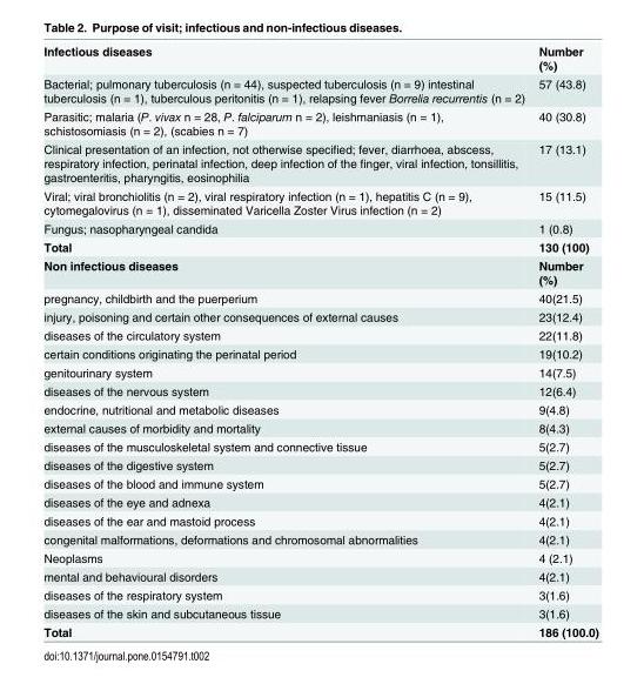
<table><tbody><tr><td>Infectious diseases</td><td>Number (%)</td></tr><tr><td>Bacterial; pulmonary tuberculosis (n = 44), suspected tuberculosis (n = 9) intestinal tuberculosis (n = 1), tuberculous peritonitis (n = 1), relapsing fever Borrelia recurrentis (n = 2)</td><td>57 (43.8)</td></tr><tr><td>Parasitic; malaria (P. vivax n = 28, P. falciparum n = 2), leishmaniasis (n = 1), schistosomiasis (n = 2), (scabies n = 7)</td><td>40 (30.8)</td></tr><tr><td>Clinical presentation of an infection, not otherwise specified; fever, diarrhoea, abscess, respiratory infection, perinatal infection, deep infection of the finger, viral infection, tonsillitis, gastroenteritis, pharyngitis, eosinophilia</td><td>17 (13.1)</td></tr><tr><td>Viral; viral bronchiolitis (n = 2), viral respiratory infection (n = 1), hepatitis C (n = 9), cytomegalovirus (n = 1), disseminated Varicella Zoster Virus infection (n = 2)</td><td>15 (11.5)</td></tr><tr><td>Fungus; nasopharyngeal candida</td><td>1 (0.8)</td></tr><tr><td>Total</td><td>130 (100)</td></tr><tr><td>Non infectious diseases</td><td>Number (%)</td></tr><tr><td>pregnancy, childbirth and the puerperium</td><td>40(21.5)</td></tr><tr><td>injury, poisoning and certain other consequences of external causes</td><td>23(12.4)</td></tr><tr><td>diseases of the circulatory system</td><td>22(11.8)</td></tr><tr><td>certain conditions originating the perinatal period</td><td>19(10.2)</td></tr><tr><td>genitourinary system</td><td>14(7.5)</td></tr><tr><td>diseases of the nervous system</td><td>12(6.4)</td></tr><tr><td>endocrine, nutritional and metabolic diseases</td><td>9(4.8)</td></tr><tr><td>external causes of morbidity and mortality</td><td>8(4.3)</td></tr><tr><td>diseases of the musculoskeletal system and connective tissue</td><td>5(2.7)</td></tr><tr><td>diseases of the digestive system</td><td>5(2.7)</td></tr><tr><td>diseases of the blood and immune system</td><td>5(2.7)</td></tr><tr><td>diseases of the eye and adnexa</td><td>4(2.1)</td></tr><tr><td>diseases of the ear and mastoid process</td><td>4(2.1)</td></tr><tr><td>congenital malformations, deformations and chromosomal abnormalities</td><td>4(2.1)</td></tr><tr><td>Neoplasms</td><td>4 (2.1)</td></tr><tr><td>mental and behavioural disorders</td><td>4(2.1)</td></tr><tr><td>diseases of the respiratory system</td><td>3(1.6)</td></tr><tr><td>diseases of the skin and subcutaneous tissue</td><td>3(1.6)</td></tr><tr><td>Total</td><td>186 (100.0)</td></tr></tbody></table>